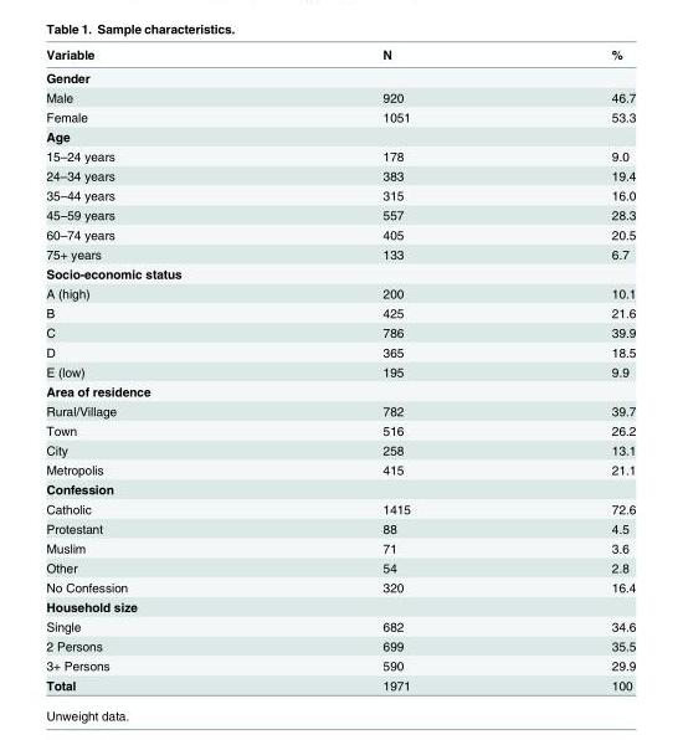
<table><thead><tr><td>Variable</td><td>N</td><td>%</td></tr></thead><tbody><tr><td colspan="3">Gender</td></tr><tr><td>Male</td><td>920</td><td>46.7</td></tr><tr><td>Female</td><td>1051</td><td>53.3</td></tr><tr><td colspan="3">Age</td></tr><tr><td>15–24 years</td><td>178</td><td>9.0</td></tr><tr><td>24–34 years</td><td>383</td><td>19.4</td></tr><tr><td>35–44 years</td><td>315</td><td>16.0</td></tr><tr><td>45–59 years</td><td>557</td><td>28.3</td></tr><tr><td>60–74 years</td><td>405</td><td>20.5</td></tr><tr><td>75+ years</td><td>133</td><td>6.7</td></tr><tr><td colspan="3">Socio-economic status</td></tr><tr><td>A (high)</td><td>200</td><td>10.1</td></tr><tr><td>B</td><td>425</td><td>21.6</td></tr><tr><td>C</td><td>786</td><td>39.9</td></tr><tr><td>D</td><td>365</td><td>18.5</td></tr><tr><td>E (low)</td><td>195</td><td>9.9</td></tr><tr><td colspan="3">Area of residence</td></tr><tr><td>Rural/Village</td><td>782</td><td>39.7</td></tr><tr><td>Town</td><td>516</td><td>26.2</td></tr><tr><td>City</td><td>258</td><td>13.1</td></tr><tr><td>Metropolis</td><td>415</td><td>21.1</td></tr><tr><td colspan="3">Confession</td></tr><tr><td>Catholic</td><td>1415</td><td>72.6</td></tr><tr><td>Protestant</td><td>88</td><td>4.5</td></tr><tr><td>Muslim</td><td>71</td><td>3.6</td></tr><tr><td>Other</td><td>54</td><td>2.8</td></tr><tr><td>No Confession</td><td>320</td><td>16.4</td></tr><tr><td colspan="3">Household size</td></tr><tr><td>Single</td><td>682</td><td>34.6</td></tr><tr><td>2 Persons</td><td>699</td><td>35.5</td></tr><tr><td>3+ Persons</td><td>590</td><td>29.9</td></tr><tr><td>Total</td><td>1971</td><td>100</td></tr></tbody></table>